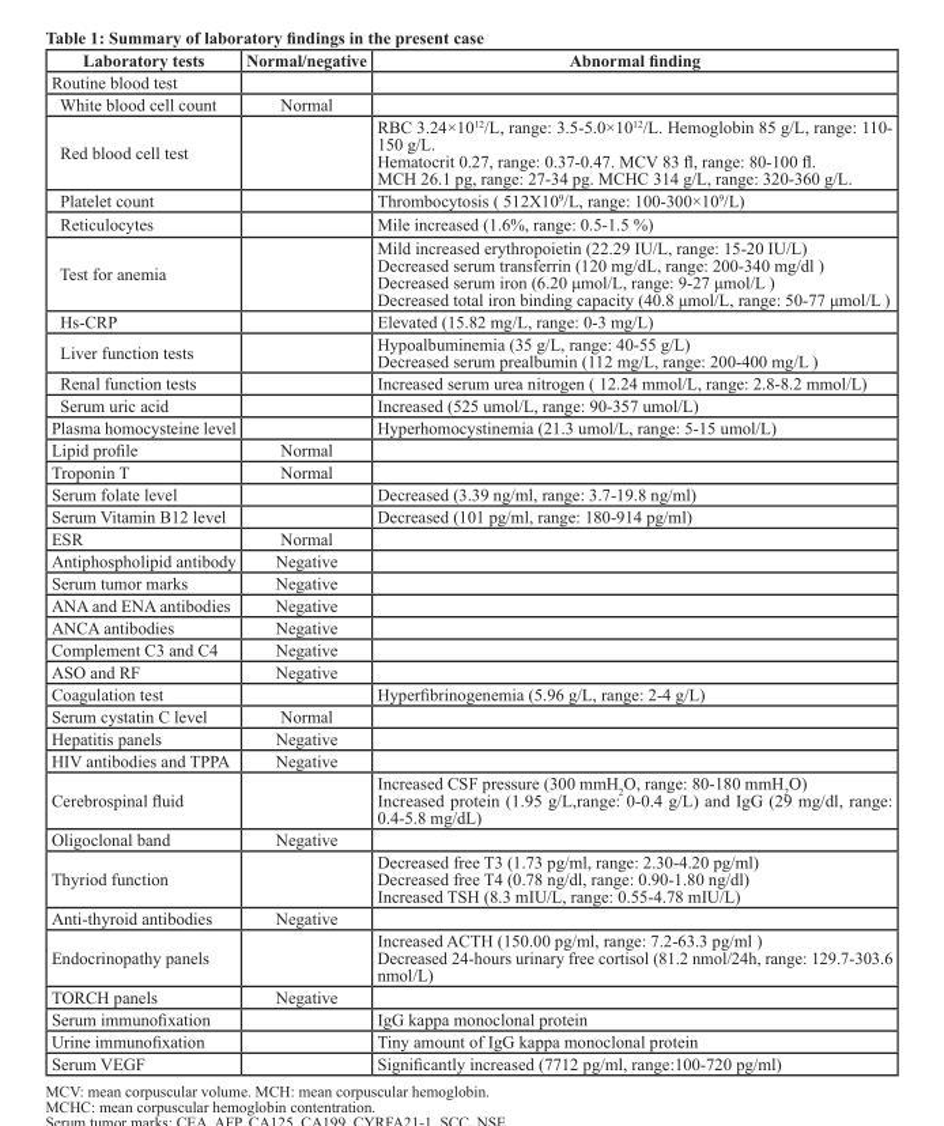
<table><thead><tr><td>Laboratory tests</td><td>Normal/negative</td><td>Abnormal finding</td></tr></thead><tbody><tr><td colspan="3">Routine blood test</td></tr><tr><td>White blood cell count</td><td>Normal</td><td></td></tr><tr><td>Red blood cell test</td><td></td><td>RBC 3.24×10<sup>12</sup>/L, range: 3.5-5.0×10<sup>12</sup>/L. Hemoglobin 85 g/L, range: 110- 150 g/L. Hematocrit 0.27, range: 0.37-0.47. MCV 83 fl, range: 80-100 fl. MCH 26.1 pg, range: 27-34 pg. MCHC 314 g/L, range: 320-360 g/L.</td></tr><tr><td>Platelet count</td><td></td><td>Thrombocytosis ( 512X10<sup>9</sup>/L, range: 100-300×10<sup>9</sup>/L)</td></tr><tr><td>Reticulocytes</td><td></td><td>Mile increased (1.6%, range: 0.5-1.5 %)</td></tr><tr><td>Test for anemia</td><td></td><td>Mild increased erythropoietin (22.29 IU/L, range: 15-20 IU/L) Decreased serum transferrin (120 mg/dL, range: 200-340 mg/dl ) Decreased serum iron (6.20 μmol/L, range: 9-27 μmol/L ) Decreased total iron binding capacity (40.8 μmol/L, range: 50-77 μmol/L )</td></tr><tr><td>Hs-CRP</td><td></td><td>Elevated (15.82 mg/L, range: 0-3 mg/L)</td></tr><tr><td>Liver function tests</td><td></td><td>Hypoalbuminemia (35 g/L, range: 40-55 g/L) Decreased serum prealbumin (112 mg/L, range: 200-400 mg/L )</td></tr><tr><td>Renal function tests</td><td></td><td>Increased serum urea nitrogen ( 12.24 mmol/L, range: 2.8-8.2 mmol/L)</td></tr><tr><td>Serum uric acid</td><td></td><td>Increased (525 umol/L, range: 90-357 umol/L)</td></tr><tr><td>Plasma homocysteine level</td><td></td><td>Hyperhomocystinemia (21.3 umol/L, range: 5-15 umol/L)</td></tr><tr><td>Lipid profile</td><td>Normal</td><td></td></tr><tr><td>Troponin T</td><td>Normal</td><td></td></tr><tr><td>Serum folate level</td><td></td><td>Decreased (3.39 ng/ml, range: 3.7-19.8 ng/ml)</td></tr><tr><td>Serum Vitamin B12 level</td><td></td><td>Decreased (101 pg/ml, range: 180-914 pg/ml)</td></tr><tr><td>ESR</td><td>Normal</td><td></td></tr><tr><td>Antiphospholipid antibody</td><td>Negative</td><td></td></tr><tr><td>Serum tumor marks</td><td>Negative</td><td></td></tr><tr><td>ANA and ENA antibodies</td><td>Negative</td><td></td></tr><tr><td>ANCA antibodies</td><td>Negative</td><td></td></tr><tr><td>Complement C3 and C4</td><td>Negative</td><td></td></tr><tr><td>ASO and RF</td><td>Negative</td><td></td></tr><tr><td>Coagulation test</td><td></td><td>Hyperfibrinogenemia (5.96 g/L, range: 2-4 g/L)</td></tr><tr><td>Serum cystatin C level</td><td>Normal</td><td></td></tr><tr><td>Hepatitis panels</td><td>Negative</td><td></td></tr><tr><td>HIV antibodies and TPPA</td><td>Negative</td><td></td></tr><tr><td>Cerebrospinal fluid</td><td></td><td>Increased CSF pressure (300 mmH<sub>2</sub>O, range: 80-180 mmH<sub>2</sub>O) Increased protein (1.95 g/L,range: 0-0.4 g/L) and IgG (29 mg/dl, range: 0.4-5.8 mg/dL)</td></tr><tr><td>Oligoclonal band</td><td>Negative</td><td></td></tr><tr><td>Thyriod function</td><td></td><td>Decreased free T3 (1.73 pg/ml, range: 2.30-4.20 pg/ml) Decreased free T4 (0.78 ng/dl, range: 0.90-1.80 ng/dl) Increased TSH (8.3 mIU/L, range: 0.55-4.78 mIU/L)</td></tr><tr><td>Anti-thyroid antibodies</td><td>Negative</td><td></td></tr><tr><td>Endocrinopathy panels</td><td></td><td>Increased ACTH (150.00 pg/ml, range: 7.2-63.3 pg/ml ) Decreased 24-hours urinary free cortisol (81.2 nmol/24h, range: 129.7-303.6 nmol/L)</td></tr><tr><td>TORCH panels</td><td>Negative</td><td></td></tr><tr><td>Serum immunofixation</td><td></td><td>IgG kappa monoclonal protein</td></tr><tr><td>Urine immunofixation</td><td></td><td>Tiny amount of IgG kappa monoclonal protein</td></tr><tr><td>Serum VEGF</td><td></td><td>Significantly increased (7712 pg/ml, range:100-720 pg/ml)</td></tr></tbody></table>